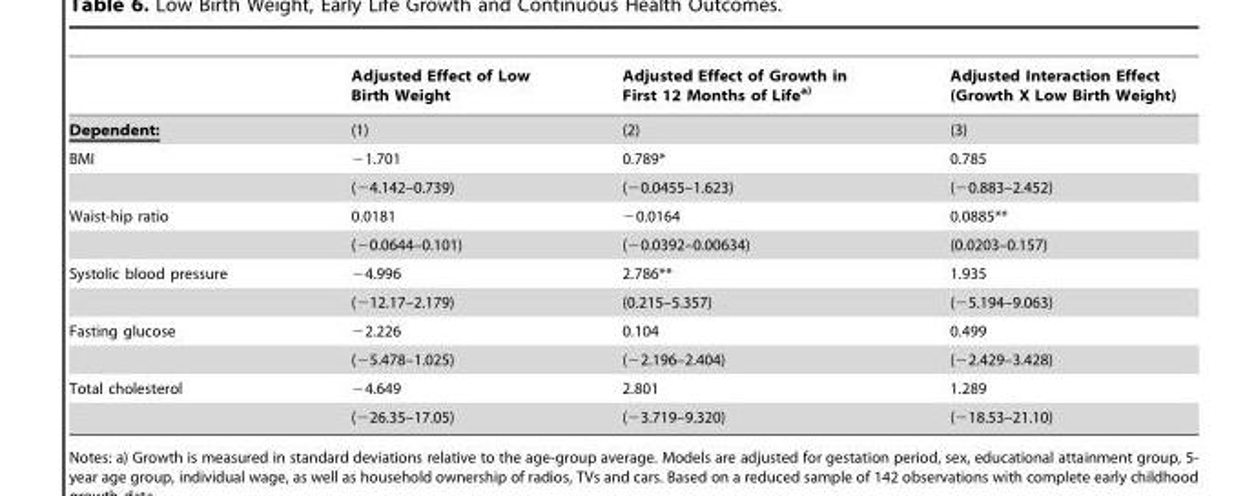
<table><thead><tr><td></td><td>Adjusted Effect of Low Birth Weight</td><td>Adjusted Effect of Growth in First 12 Months of Life<sup>a)</sup></td><td>Adjusted Interaction Effect (Growth X Low Birth Weight)</td></tr></thead><tbody><tr><td>Dependent:</td><td>(1)</td><td>(2)</td><td>(3)</td></tr><tr><td rowspan="2">BMI</td><td>−1.701</td><td>0.789*</td><td>0.785</td></tr><tr><td>(−4.142–0.739)</td><td>(−0.0455–1.623)</td><td>(−0.883–2.452)</td></tr><tr><td rowspan="2">Waist-hip ratio</td><td>0.0181</td><td>−0.0164</td><td>0.0885**</td></tr><tr><td>(−0.0644–0.101)</td><td>(−0.0392–0.00634)</td><td>(0.0203–0.157)</td></tr><tr><td rowspan="2">Systolic blood pressure</td><td>−4.996</td><td>2.786**</td><td>1.935</td></tr><tr><td>(−12.17–2.179)</td><td>(0.215–5.357)</td><td>(−5.194–9.063)</td></tr><tr><td rowspan="2">Fasting glucose</td><td>−2.226</td><td>0.104</td><td>0.499</td></tr><tr><td>(−5.478–1.025)</td><td>(−2.196–2.404)</td><td>(−2.429–3.428)</td></tr><tr><td rowspan="2">Total cholesterol</td><td>−4.649</td><td>2.801</td><td>1.289</td></tr><tr><td>(−26.35–17.05)</td><td>(−3.719–9.320)</td><td>(−18.53–21.10)</td></tr></tbody></table>